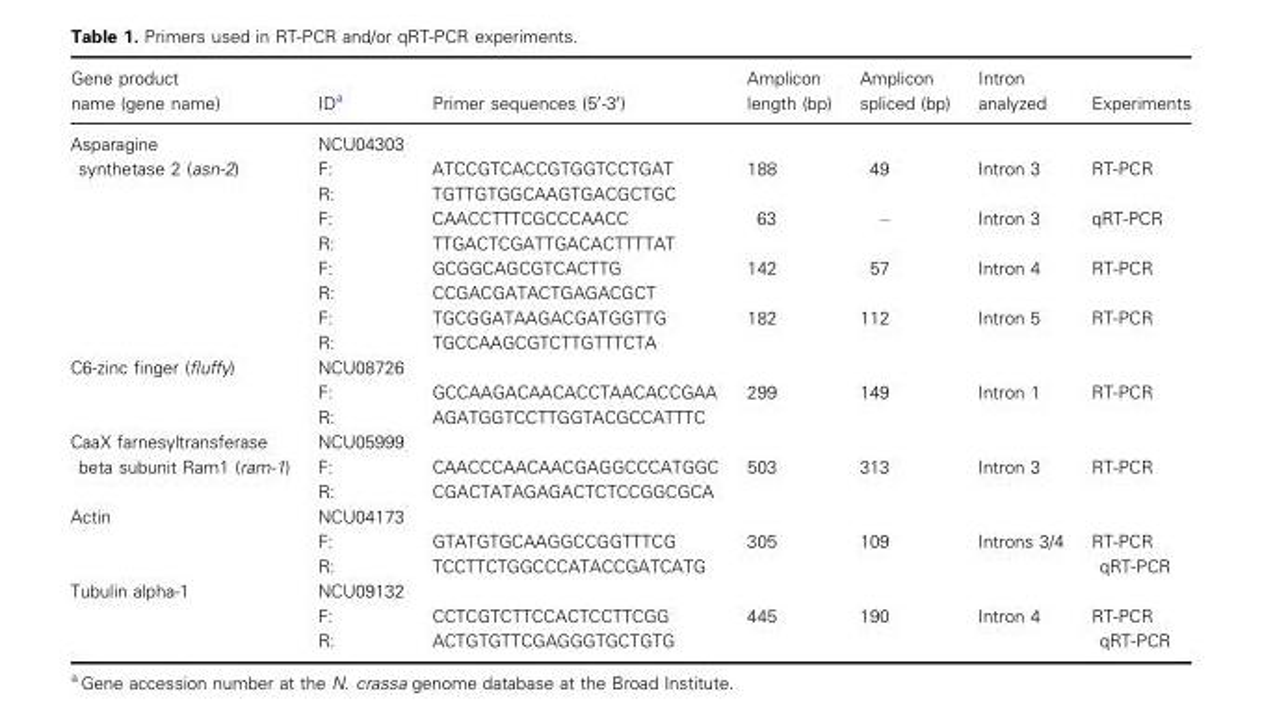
<table><thead><tr><td>Gene product name (gene name)</td><td>ID<sup>a</sup></td><td>Primer sequences (5′-3′)</td><td>Amplicon length (bp)</td><td>Amplicon spliced (bp)</td><td>Intron analyzed</td><td>Experiments</td></tr></thead><tbody><tr><td rowspan="9">Asparagine synthetase 2 (asn-2)</td><td>NCU04303</td><td></td><td></td><td></td><td></td><td></td></tr><tr><td>F:</td><td>ATCCGTCACCGTGGTCCTGAT</td><td>188</td><td>49</td><td>Intron 3</td><td>RT-PCR</td></tr><tr><td>R:</td><td>TGTTGTGGCAAGTGACGCTGC</td><td></td><td></td><td></td><td></td></tr><tr><td>F:</td><td>CAACCTTTCGCCCAACC</td><td>63</td><td>–</td><td>Intron 3</td><td>qRT-PCR</td></tr><tr><td>R:</td><td>TTGACTCGATTGACACTTTTAT</td><td></td><td></td><td></td><td></td></tr><tr><td>F:</td><td>GCGGCAGCGTCACTTG</td><td>142</td><td>57</td><td>Intron 4</td><td>RT-PCR</td></tr><tr><td>R:</td><td>CCGACGATACTGAGACGCT</td><td></td><td></td><td></td><td></td></tr><tr><td>F:</td><td>TGCGGATAAGACGATGGTTG</td><td>182</td><td>112</td><td>Intron 5</td><td>RT-PCR</td></tr><tr><td>R:</td><td>TGCCAAGCGTCTTGTTTCTA</td><td></td><td></td><td></td><td></td></tr><tr><td rowspan="3">C6-zinc finger (fluffy)</td><td>NCU08726</td><td></td><td></td><td></td><td></td><td></td></tr><tr><td>F:</td><td>GCCAAGACAACACCTAACACCGAA</td><td>299</td><td>149</td><td>Intron 1</td><td>RT-PCR</td></tr><tr><td>R:</td><td>AGATGGTCCTTGGTACGCCATTTC</td><td></td><td></td><td></td><td></td></tr><tr><td rowspan="3">CaaX farnesyltransferase beta subunit Ram1 (ram-1)</td><td>NCU05999</td><td></td><td></td><td></td><td></td><td></td></tr><tr><td>F:</td><td>CAACCCAACAACGAGGCCCATGGC</td><td>503</td><td>313</td><td>Intron 3</td><td>RT-PCR</td></tr><tr><td>R:</td><td>CGACTATAGAGACTCTCCGGCGCA</td><td></td><td></td><td></td><td></td></tr><tr><td rowspan="3">Actin</td><td>NCU04173</td><td></td><td></td><td></td><td></td><td></td></tr><tr><td>F:</td><td>GTATGTGCAAGGCCGGTTTCG</td><td>305</td><td>109</td><td>Introns 3/4</td><td rowspan="2">RT-PCR qRT-PCR</td></tr><tr><td>R:</td><td>TCCTTCTGGCCCATACCGATCATG</td><td></td><td></td><td></td></tr><tr><td rowspan="3">Tubulin alpha-1</td><td>NCU09132</td><td></td><td></td><td></td><td></td><td></td></tr><tr><td>F:</td><td>CCTCGTCTTCCACTCCTTCGG</td><td>445</td><td>190</td><td>Intron 4</td><td rowspan="2">RT-PCR qRT-PCR</td></tr><tr><td>R:</td><td>ACTGTGTTCGAGGGTGCTGTG</td><td></td><td></td><td></td></tr></tbody></table>